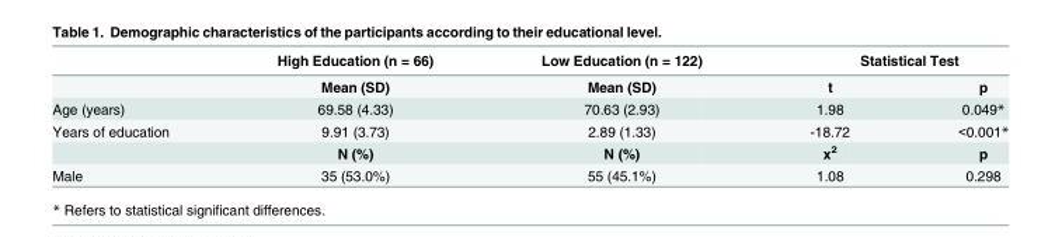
<table><thead><tr><td rowspan="2"></td><td rowspan="2">High Education (n = 66) Mean (SD)</td><td rowspan="2">Low Education (n = 122) Mean (SD)</td><td colspan="2">Statistical Test</td></tr><tr><td>t</td><td>p</td></tr></thead><tbody><tr><td>Age (years)</td><td>69.58 (4.33)</td><td>70.63 (2.93)</td><td>1.98</td><td>0.049*</td></tr><tr><td rowspan="2">Years of education</td><td>9.91 (3.73)</td><td>2.89 (1.33)</td><td>-18.72</td><td>&lt;0.001*</td></tr><tr><td>N (%)</td><td>N (%)</td><td>x<sup>2</sup></td><td>p</td></tr><tr><td>Male</td><td>35 (53.0%)</td><td>55 (45.1%)</td><td>1.08</td><td>0.298</td></tr></tbody></table>